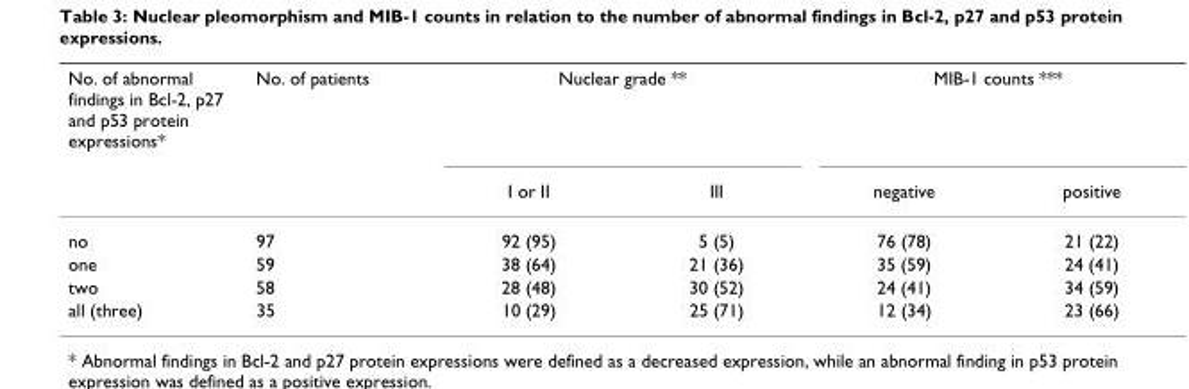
<table><thead><tr><td rowspan="2">No. of abnormal findings in Bcl-2, p27 and p53 protein expressions*</td><td rowspan="2">No. of patients</td><td colspan="2">Nuclear grade **</td><td colspan="2">MIB-1 counts ***</td></tr><tr><td>I or II</td><td>III</td><td>negative</td><td>positive</td></tr></thead><tbody><tr><td>no</td><td>97</td><td>92 (95)</td><td>5 (5)</td><td>76 (78)</td><td>21 (22)</td></tr><tr><td>one</td><td>59</td><td>38 (64)</td><td>21 (36)</td><td>35 (59)</td><td>24 (41)</td></tr><tr><td>two</td><td>58</td><td>28 (48)</td><td>30 (52)</td><td>24 (41)</td><td>34 (59)</td></tr><tr><td>all (three)</td><td>35</td><td>10 (29)</td><td>25 (71)</td><td>12 (34)</td><td>23 (66)</td></tr></tbody></table>